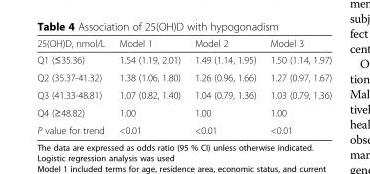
<table><thead><tr><td>25(OH)D, nmol/L</td><td>Model 1</td><td>Model 2</td><td>Model 3</td></tr></thead><tbody><tr><td>Q1 (≤35.36)</td><td>1.54 (1.19, 2.01)</td><td>1.49 (1.14, 1.95)</td><td>1.50 (1.14, 1.97)</td></tr><tr><td>Q2 (35.37-41.32)</td><td>1.38 (1.06, 1.80)</td><td>1.26 (0.96, 1.66)</td><td>1.27 (0.97, 1.67)</td></tr><tr><td>Q3 (41.33-48.81)</td><td>1.07 (0.82, 1.40)</td><td>1.04 (0.79, 1.36)</td><td>1.03 (0.79, 1.36)</td></tr><tr><td>Q4 (≥48.82)</td><td>1.00</td><td>1.00</td><td>1.00</td></tr><tr><td>P value for trend</td><td>&lt;0.01</td><td>&lt;0.01</td><td>&lt;0.01</td></tr></tbody></table>